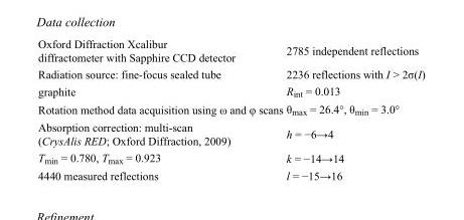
<table><tbody><tr><td>Oxford Diffraction Xcalibur diffractometer with Sapphire CCD detector</td><td>2785 independent reflections</td></tr><tr><td>Radiation source: fine-focus sealed tube</td><td>2236 reflections with I &gt; 2σ(I)</td></tr><tr><td>graphite</td><td>R<sub>int</sub> = 0.013</td></tr><tr><td>Rotation method data acquisition using ω and φ scans</td><td>θ<sub>max</sub> = 26.4°, θ<sub>min</sub> = 3.0°</td></tr><tr><td>Absorption correction: multi-scan (CrysAlis RED; Oxford Diffraction, 2009)</td><td>h = −6→4</td></tr><tr><td>T<sub>min</sub> = 0.780, T<sub>max</sub> = 0.923</td><td>k = −14→14</td></tr><tr><td>4440 measured reflections</td><td>l = −15→16</td></tr></tbody></table>